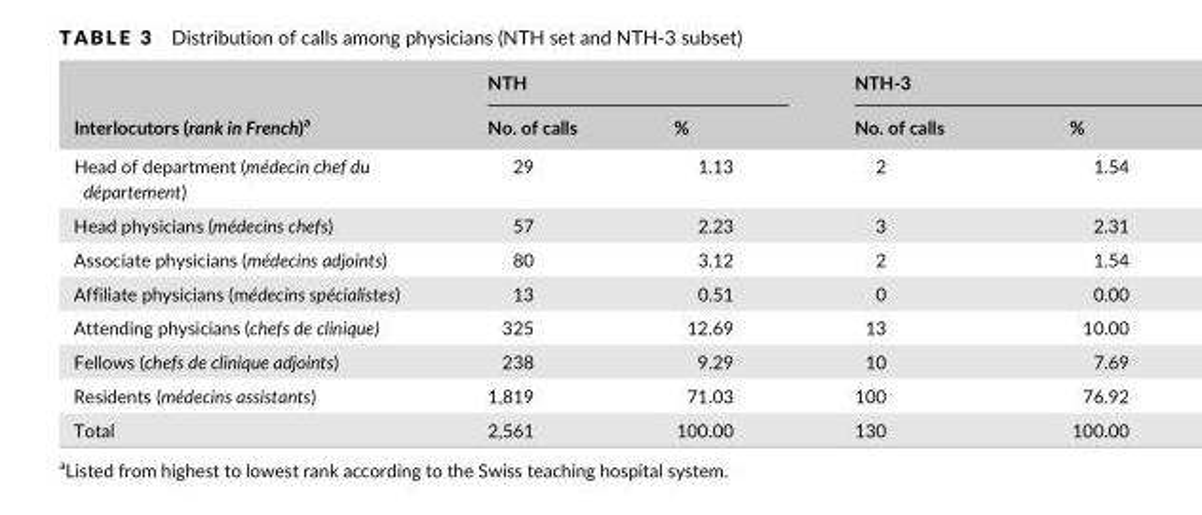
<table><thead><tr><td rowspan="2">Interlocutors (rank in French)<sup>a</sup></td><td colspan="2">NTH</td><td colspan="2">NTH- 3</td></tr><tr><td>No. of calls</td><td>%</td><td>No. of calls</td><td>%</td></tr></thead><tbody><tr><td>Head of department (médecin chef du département)</td><td>29</td><td>1.13</td><td>2</td><td>1.54</td></tr><tr><td>Head physicians (médecins chefs)</td><td>57</td><td>2.23</td><td>3</td><td>2.31</td></tr><tr><td>Associate physicians (médecins adjoints)</td><td>80</td><td>3.12</td><td>2</td><td>1.54</td></tr><tr><td>Affiliate physicians (médecins spécialistes)</td><td>13</td><td>0.51</td><td>0</td><td>0.00</td></tr><tr><td>Attending physicians (chefs de clinique)</td><td>325</td><td>12.69</td><td>13</td><td>10.00</td></tr><tr><td>Fellows (chefs de clinique adjoints)</td><td>238</td><td>9.29</td><td>10</td><td>7.69</td></tr><tr><td>Residents (médecins assistants)</td><td>1,819</td><td>71.03</td><td>100</td><td>76.92</td></tr><tr><td>Total</td><td>2,561</td><td>100.00</td><td>130</td><td>100.00</td></tr></tbody></table>